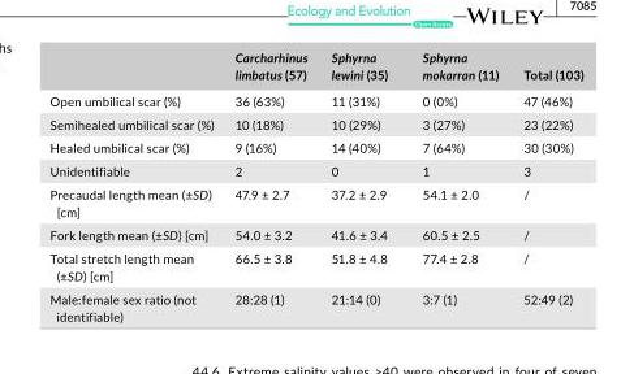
<table><thead><tr><td></td><td>Carcharhinus limbatus (57)</td><td>Sphyrna lewini (35)</td><td>Sphyrna mokarran (11)</td><td>Total (103)</td></tr></thead><tbody><tr><td>Open umbilical scar (%)</td><td>36 (63%)</td><td>11 (31%)</td><td>0 (0%)</td><td>47 (46%)</td></tr><tr><td>Semihealed umbilical scar (%)</td><td>10 (18%)</td><td>10 (29%)</td><td>3 (27%)</td><td>23 (22%)</td></tr><tr><td>Healed umbilical scar (%)</td><td>9 (16%)</td><td>14 (40%)</td><td>7 (64%)</td><td>30 (30%)</td></tr><tr><td>Unidentifiable</td><td>2</td><td>0</td><td>1</td><td>3</td></tr><tr><td>Precaudal length mean (±SD) [cm]</td><td>47.9 ± 2.7</td><td>37.2 ± 2.9</td><td>54.1 ± 2.0</td><td>/</td></tr><tr><td>Fork length mean (±SD) [cm]</td><td>54.0 ± 3.2</td><td>41.6 ± 3.4</td><td>60.5 ± 2.5</td><td>/</td></tr><tr><td>Total stretch length mean (±SD) [cm]</td><td>66.5 ± 3.8</td><td>51.8 ± 4.8</td><td>77.4 ± 2.8</td><td>/</td></tr><tr><td>Male:female sex ratio (not identifiable)</td><td>28:28 (1)</td><td>21:14 (0)</td><td>3:7 (1)</td><td>52:49 (2)</td></tr></tbody></table>